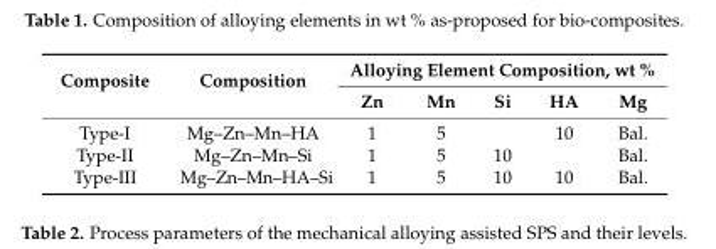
<table><thead><tr><td rowspan="2">Composite</td><td rowspan="2">Composition</td><td colspan="5">Alloying Element Composition, wt %</td></tr><tr><td>Zn</td><td>Mn</td><td>Si</td><td>HA</td><td>Mg</td></tr></thead><tbody><tr><td>Type-I</td><td>Mg–Zn–Mn–HA</td><td>1</td><td>5</td><td></td><td>10</td><td>Bal.</td></tr><tr><td>Type-II</td><td>Mg–Zn–Mn–Si</td><td>1</td><td>5</td><td>10</td><td></td><td>Bal.</td></tr><tr><td>Type-III</td><td>Mg–Zn–Mn–HA–Si</td><td>1</td><td>5</td><td>10</td><td>10</td><td>Bal.</td></tr></tbody></table>